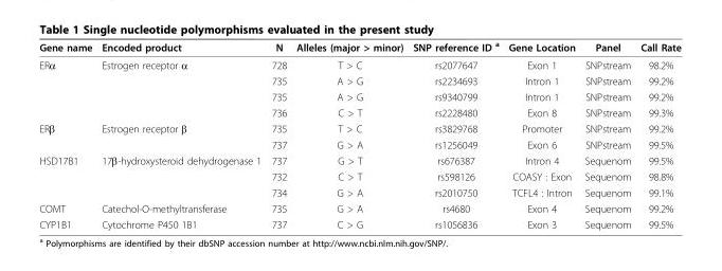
<table><thead><tr><td>Gene name</td><td>Encoded product</td><td>N</td><td>Alleles (major &gt; minor)</td><td>SNP reference ID <sup>a</sup></td><td>Gene Location</td><td>Panel</td><td>Call Rate</td></tr></thead><tbody><tr><td rowspan="4">ERα</td><td>Estrogen receptor α</td><td>728</td><td>T &gt; C</td><td>rs2077647</td><td>Exon 1</td><td>SNPstream</td><td>98.2%</td></tr><tr><td></td><td>735</td><td>A &gt; G</td><td>rs2234693</td><td>Intron 1</td><td>SNPstream</td><td>99.2%</td></tr><tr><td></td><td>735</td><td>A &gt; G</td><td>rs9340799</td><td>Intron 1</td><td>SNPstream</td><td>99.2%</td></tr><tr><td></td><td>736</td><td>C &gt; T</td><td>rs2228480</td><td>Exon 8</td><td>SNPstream</td><td>99.3%</td></tr><tr><td rowspan="2">ERβ</td><td>Estrogen receptor β</td><td>735</td><td>T &gt; C</td><td>rs3829768</td><td>Promoter</td><td>SNPstream</td><td>99.2%</td></tr><tr><td></td><td>737</td><td>G &gt; A</td><td>rs1256049</td><td>Exon 6</td><td>SNPstream</td><td>99.5%</td></tr><tr><td rowspan="3">HSD17B1</td><td>17β-hydroxysteroid dehydrogenase 1</td><td>737</td><td>G &gt; T</td><td>rs676387</td><td>Intron 4</td><td>Sequenom</td><td>99.5%</td></tr><tr><td></td><td>732</td><td>C &gt; T</td><td>rs598126</td><td>COASY : Exon</td><td>Sequenom</td><td>98.8%</td></tr><tr><td></td><td>734</td><td>G &gt; A</td><td>rs2010750</td><td>TCFL4 : Intron</td><td>Sequenom</td><td>99.1%</td></tr><tr><td>COMT</td><td>Catechol-O-methyltransferase</td><td>735</td><td>G &gt; A</td><td>rs4680</td><td>Exon 4</td><td>Sequenom</td><td>99.2%</td></tr><tr><td>CYP1B1</td><td>Cytochrome P450 1B1</td><td>737</td><td>C &gt; G</td><td>rs1056836</td><td>Exon 3</td><td>Sequenom</td><td>99.5%</td></tr></tbody></table>